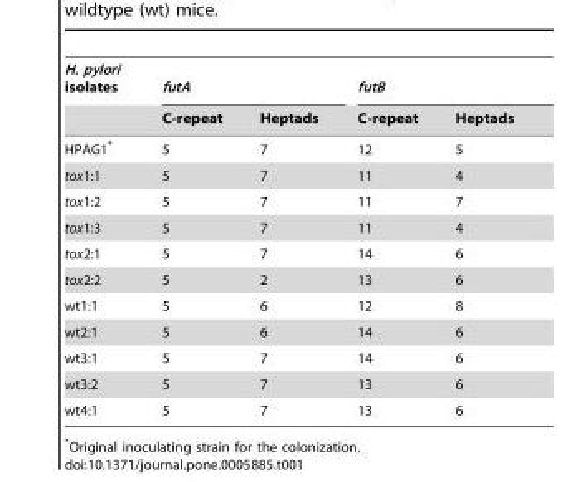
<table><thead><tr><td rowspan="2">H. pylori isolates</td><td colspan="2">futA</td><td colspan="2">futB</td></tr><tr><td>C-repeat</td><td>Heptads</td><td>C-repeat</td><td>Heptads</td></tr></thead><tbody><tr><td>HPAG1*</td><td>5</td><td>7</td><td>12</td><td>5</td></tr><tr><td>tox1:1</td><td>5</td><td>7</td><td>11</td><td>4</td></tr><tr><td>tox1:2</td><td>5</td><td>7</td><td>11</td><td>7</td></tr><tr><td>tox1:3</td><td>5</td><td>7</td><td>11</td><td>4</td></tr><tr><td>tox2:1</td><td>5</td><td>7</td><td>14</td><td>6</td></tr><tr><td>tox2:2</td><td>5</td><td>2</td><td>13</td><td>6</td></tr><tr><td>wt1:1</td><td>5</td><td>6</td><td>12</td><td>8</td></tr><tr><td>wt2:1</td><td>5</td><td>6</td><td>14</td><td>6</td></tr><tr><td>wt3:1</td><td>5</td><td>7</td><td>14</td><td>6</td></tr><tr><td>wt3:2</td><td>5</td><td>7</td><td>13</td><td>6</td></tr><tr><td>wt4:1</td><td>5</td><td>7</td><td>13</td><td>6</td></tr></tbody></table>